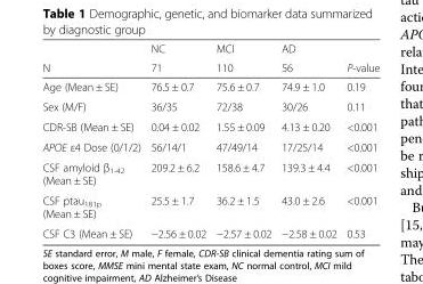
<table><thead><tr><td rowspan="2">N</td><td rowspan="2">NC 71</td><td rowspan="2">MCI 110</td><td rowspan="2">AD 56</td><td rowspan="2">P-value</td></tr><tr></tr></thead><tbody><tr><td>Age (Mean ± SE)</td><td>76.5 ± 0.7</td><td>75.6 ± 0.7</td><td>74.9 ± 1.0</td><td>0.19</td></tr><tr><td>Sex (M/F)</td><td>36/35</td><td>72/38</td><td>30/26</td><td>0.11</td></tr><tr><td>CDR-SB (Mean ± SE)</td><td>0.04 ± 0.02</td><td>1.55 ± 0.09</td><td>4.13 ± 0.20</td><td>&lt;0.001</td></tr><tr><td>APOE ε4 Dose (0/1/2)</td><td>56/14/1</td><td>47/49/14</td><td>17/25/14</td><td>&lt;0.001</td></tr><tr><td>CSF amyloid β<sub>1-42</sub> (Mean ± SE)</td><td>209.2 ± 6.2</td><td>158.6 ± 4.7</td><td>139.3 ± 4.4</td><td>&lt;0.001</td></tr><tr><td>CSF ptau<sub>181p</sub> (Mean ± SE)</td><td>25.5 ± 1.7</td><td>36.2 ± 1.5</td><td>43.0 ± 2.6</td><td>&lt;0.001</td></tr><tr><td>CSF C3 (Mean ± SE)</td><td>−2.56 ± 0.02</td><td>−2.57 ± 0.02</td><td>−2.58 ± 0.02</td><td>0.53</td></tr></tbody></table>